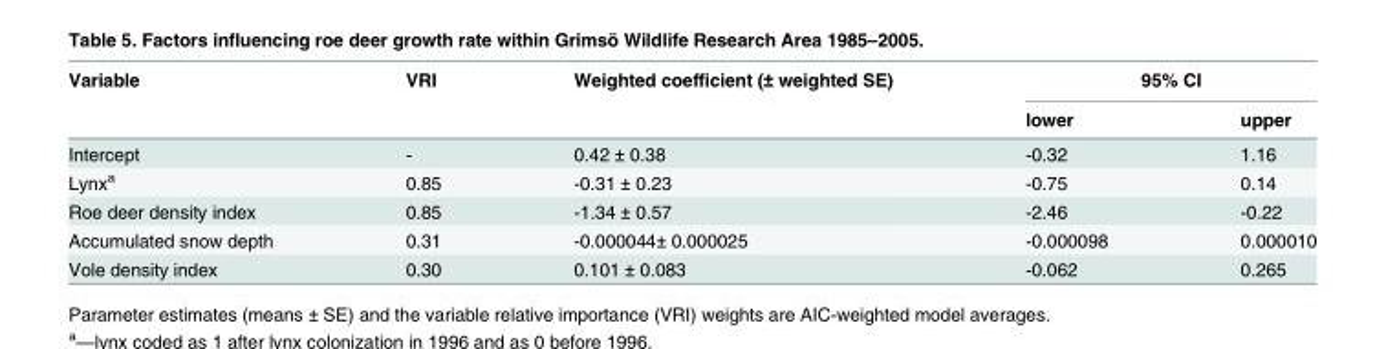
<table><thead><tr><td rowspan="2">Variable</td><td rowspan="2">VRI</td><td rowspan="2">Weighted coefficient (± weighted SE)</td><td colspan="2">95% CI</td></tr><tr><td>lower</td><td>upper</td></tr></thead><tbody><tr><td>Intercept</td><td>-</td><td>0.42 ± 0.38</td><td>-0.32</td><td>1.16</td></tr><tr><td>Lynx<sup>a</sup></td><td>0.85</td><td>-0.31 ± 0.23</td><td>-0.75</td><td>0.14</td></tr><tr><td>Roe deer density index</td><td>0.85</td><td>-1.34 ± 0.57</td><td>-2.46</td><td>-0.22</td></tr><tr><td>Accumulated snow depth</td><td>0.31</td><td>-0.000044± 0.000025</td><td>-0.000098</td><td>0.000010</td></tr><tr><td>Vole density index</td><td>0.30</td><td>0.101 ± 0.083</td><td>-0.062</td><td>0.265</td></tr></tbody></table>